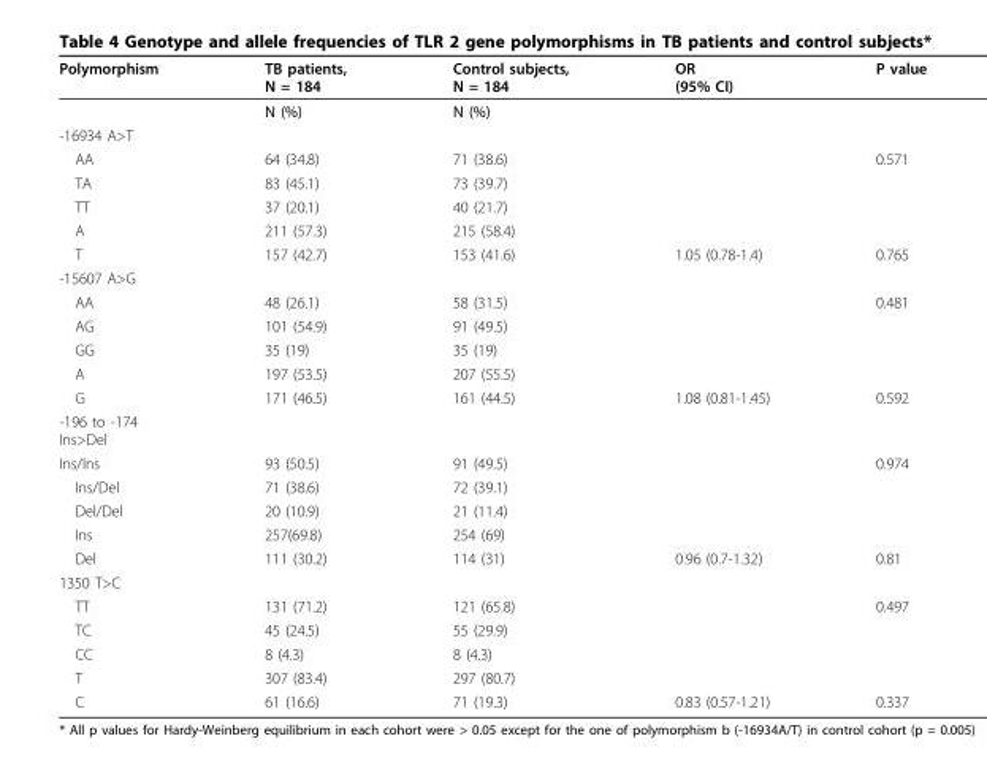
<table><thead><tr><td rowspan="2">Polymorphism</td><td rowspan="2">TB patients, N = 184 N (%)</td><td rowspan="2">Control subjects, N = 184 N (%)</td><td rowspan="2">OR (95% CI)</td><td rowspan="2">P value</td></tr><tr></tr></thead><tbody><tr><td colspan="5">-16934 A&gt;T</td></tr><tr><td>AA</td><td>64 (34.8)</td><td>71 (38.6)</td><td></td><td>0.571</td></tr><tr><td>TA</td><td>83 (45.1)</td><td>73 (39.7)</td><td></td><td></td></tr><tr><td>TT</td><td>37 (20.1)</td><td>40 (21.7)</td><td></td><td></td></tr><tr><td>A</td><td>211 (57.3)</td><td>215 (58.4)</td><td></td><td></td></tr><tr><td>T</td><td>157 (42.7)</td><td>153 (41.6)</td><td>1.05 (0.78-1.4)</td><td>0.765</td></tr><tr><td colspan="5">-15607 A&gt;G</td></tr><tr><td>AA</td><td>48 (26.1)</td><td>58 (31.5)</td><td></td><td>0.481</td></tr><tr><td>AG</td><td>101 (54.9)</td><td>91 (49.5)</td><td></td><td></td></tr><tr><td>GG</td><td>35 (19)</td><td>35 (19)</td><td></td><td></td></tr><tr><td>A</td><td>197 (53.5)</td><td>207 (55.5)</td><td></td><td></td></tr><tr><td>G</td><td>171 (46.5)</td><td>161 (44.5)</td><td>1.08 (0.81-1.45)</td><td>0.592</td></tr><tr><td colspan="5">-196 to -174 Ins&gt;Del</td></tr><tr><td>Ins/Ins</td><td>93 (50.5)</td><td>91 (49.5)</td><td></td><td>0.974</td></tr><tr><td>Ins/Del</td><td>71 (38.6)</td><td>72 (39.1)</td><td></td><td></td></tr><tr><td>Del/Del</td><td>20 (10.9)</td><td>21 (11.4)</td><td></td><td></td></tr><tr><td>Ins</td><td>257(69.8)</td><td>254 (69)</td><td></td><td></td></tr><tr><td>Del</td><td>111 (30.2)</td><td>114 (31)</td><td>0.96 (0.7-1.32)</td><td>0.81</td></tr><tr><td colspan="5">1350 T&gt;C</td></tr><tr><td>TT</td><td>131 (71.2)</td><td>121 (65.8)</td><td></td><td>0.497</td></tr><tr><td>TC</td><td>45 (24.5)</td><td>55 (29.9)</td><td></td><td></td></tr><tr><td>CC</td><td>8 (4.3)</td><td>8 (4.3)</td><td></td><td></td></tr><tr><td>T</td><td>307 (83.4)</td><td>297 (80.7)</td><td></td><td></td></tr><tr><td>C</td><td>61 (16.6)</td><td>71 (19.3)</td><td>0.83 (0.57-1.21)</td><td>0.337</td></tr></tbody></table>